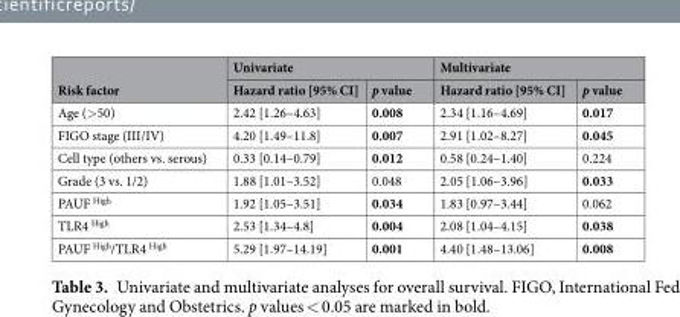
<table><thead><tr><td rowspan="2">Risk factor</td><td colspan="2">Univariate</td><td colspan="2">Multivariate</td></tr><tr><td>Hazard ratio [95% CI]</td><td>p value</td><td>Hazard ratio [95% CI]</td><td>p value</td></tr></thead><tbody><tr><td>Age (&gt;50)</td><td>2.42 [1.26–4.63]</td><td>0.008</td><td>2.34 [1.16–4.69]</td><td>0.017</td></tr><tr><td>FIGO stage (III/IV)</td><td>4.20 [1.49–11.8]</td><td>0.007</td><td>2.91 [1.02–8.27]</td><td>0.045</td></tr><tr><td>Cell type (others vs. serous)</td><td>0.33 [0.14–0.79]</td><td>0.012</td><td>0.58 [0.24–1.40]</td><td>0.224</td></tr><tr><td>Grade (3 vs. 1/2)</td><td>1.88 [1.01–3.52]</td><td>0.048</td><td>2.05 [1.06–3.96]</td><td>0.033</td></tr><tr><td>PAUF <sup>High</sup></td><td>1.92 [1.05–3.51]</td><td>0.034</td><td>1.83 [0.97–3.44]</td><td>0.062</td></tr><tr><td>TLR4 <sup>High</sup></td><td>2.53 [1.34–4.8]</td><td>0.004</td><td>2.08 [1.04–4.15]</td><td>0.038</td></tr><tr><td>PAUF <sup>High</sup>/TLR4 <sup>High</sup></td><td>5.29 [1.97–14.19]</td><td>0.001</td><td>4.40 [1.48–13.06]</td><td>0.008</td></tr></tbody></table>